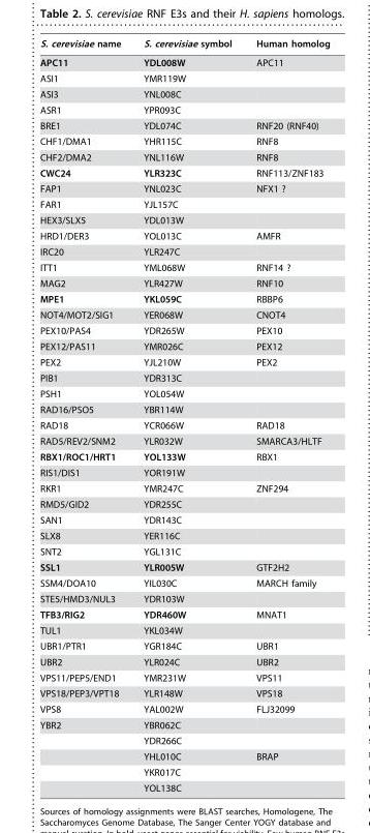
<table><thead><tr><td>S. cerevisiae name</td><td>S. cerevisiae symbol</td><td>Human homolog</td></tr></thead><tbody><tr><td>APC11</td><td>YDL008W</td><td>APC11</td></tr><tr><td>ASI1</td><td>YMR119W</td><td></td></tr><tr><td>ASI3</td><td>YNL008C</td><td></td></tr><tr><td>ASR1</td><td>YPR093C</td><td></td></tr><tr><td>BRE1</td><td>YDL074C</td><td>RNF20 (RNF40)</td></tr><tr><td>CHF1/DMA1</td><td>YHR115C</td><td>RNF8</td></tr><tr><td>CHF2/DMA2</td><td>YNL116W</td><td>RNF8</td></tr><tr><td>CWC24</td><td>YLR323C</td><td>RNF113/ZNF183</td></tr><tr><td>FAP1</td><td>YNL023C</td><td>NFX1 ?</td></tr><tr><td>FAR1</td><td>YJL157C</td><td></td></tr><tr><td>HEX3/SLX5</td><td>YDL013W</td><td></td></tr><tr><td>HRD1/DER3</td><td>YOL013C</td><td>AMFR</td></tr><tr><td>IRC20</td><td>YLR247C</td><td></td></tr><tr><td>ITT1</td><td>YML068W</td><td>RNF14 ?</td></tr><tr><td>MAG2</td><td>YLR427W</td><td>RNF10</td></tr><tr><td>MPE1</td><td>YKL059C</td><td>RBBP6</td></tr><tr><td>NOT4/MOT2/SIG1</td><td>YER068W</td><td>CNOT4</td></tr><tr><td>PEX10/PAS4</td><td>YDR265W</td><td>PEX10</td></tr><tr><td>PEX12/PAS11</td><td>YMR026C</td><td>PEX12</td></tr><tr><td>PEX2</td><td>YJL210W</td><td>PEX2</td></tr><tr><td>PIB1</td><td>YDR313C</td><td></td></tr><tr><td>PSH1</td><td>YOL054W</td><td></td></tr><tr><td>RAD16/PSO5</td><td>YBR114W</td><td></td></tr><tr><td>RAD18</td><td>YCR066W</td><td>RAD18</td></tr><tr><td>RAD5/REV2/SNM2</td><td>YLR032W</td><td>SMARCA3/HLTF</td></tr><tr><td>RBX1/ROC1/HRT1</td><td>YOL133W</td><td>RBX1</td></tr><tr><td>RIS1/DIS1</td><td>YOR191W</td><td></td></tr><tr><td>RKR1</td><td>YMR247C</td><td>ZNF294</td></tr><tr><td>RMD5/GID2</td><td>YDR255C</td><td></td></tr><tr><td>SAN1</td><td>YDR143C</td><td></td></tr><tr><td>SLX8</td><td>YER116C</td><td></td></tr><tr><td>SNT2</td><td>YGL131C</td><td></td></tr><tr><td>SSL1</td><td>YLR005W</td><td>GTF2H2</td></tr><tr><td>SSM4/DOA10</td><td>YIL030C</td><td>MARCH family</td></tr><tr><td>STE5/HMD3/NUL3</td><td>YDR103W</td><td></td></tr><tr><td>TFB3/RIG2</td><td>YDR460W</td><td>MNAT1</td></tr><tr><td>TUL1</td><td>YKL034W</td><td></td></tr><tr><td>UBR1/PTR1</td><td>YGR184C</td><td>UBR1</td></tr><tr><td>UBR2</td><td>YLR024C</td><td>UBR2</td></tr><tr><td>VPS11/PEP5/END1</td><td>YMR231W</td><td>VPS11</td></tr><tr><td>VPS18/PEP3/VPT18</td><td>YLR148W</td><td>VPS18</td></tr><tr><td>VPS8</td><td>YAL002W</td><td>FLJ32099</td></tr><tr><td rowspan="5">YBR2</td><td>YBR062C</td><td></td></tr><tr><td>YDR266C</td><td></td></tr><tr><td>YHL010C</td><td>BRAP</td></tr><tr><td>YKR017C</td><td></td></tr><tr><td>YOL138C</td><td></td></tr></tbody></table>